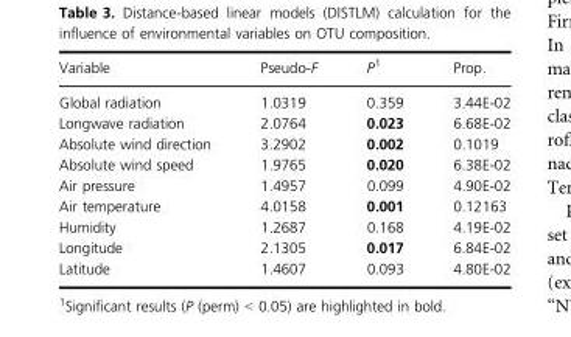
<table><thead><tr><td>Variable</td><td>Pseudo-F</td><td>P<sup>1</sup></td><td>Prop.</td></tr></thead><tbody><tr><td>Global radiation</td><td>1.0319</td><td>0.359</td><td>3.44E-02</td></tr><tr><td>Longwave radiation</td><td>2.0764</td><td>0.023</td><td>6.68E-02</td></tr><tr><td>Absolute wind direction</td><td>3.2902</td><td>0.002</td><td>0.1019</td></tr><tr><td>Absolute wind speed</td><td>1.9765</td><td>0.020</td><td>6.38E-02</td></tr><tr><td>Air pressure</td><td>1.4957</td><td>0.099</td><td>4.90E-02</td></tr><tr><td>Air temperature</td><td>4.0158</td><td>0.001</td><td>0.12163</td></tr><tr><td>Humidity</td><td>1.2687</td><td>0.168</td><td>4.19E-02</td></tr><tr><td>Longitude</td><td>2.1305</td><td>0.017</td><td>6.84E-02</td></tr><tr><td>Latitude</td><td>1.4607</td><td>0.093</td><td>4.80E-02</td></tr></tbody></table>